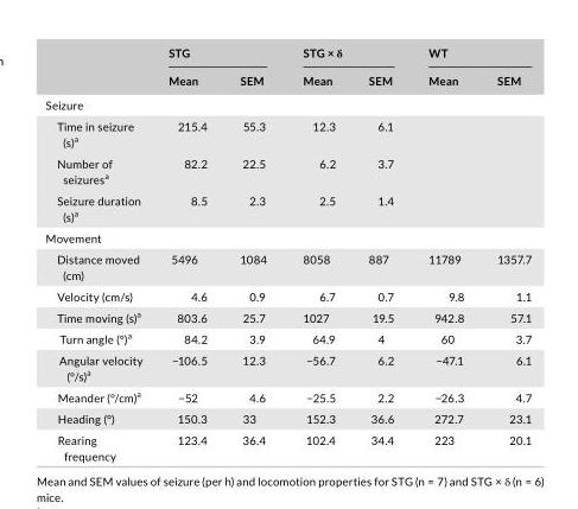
<table><thead><tr><td rowspan="2"></td><td colspan="2">STG</td><td colspan="2">STG × δ</td><td colspan="2">WT</td></tr><tr><td>Mean</td><td>SEM</td><td>Mean</td><td>SEM</td><td>Mean</td><td>SEM</td></tr></thead><tbody><tr><td colspan="7">Seizure</td></tr><tr><td>Time in seizure (s)<sup>a</sup></td><td>215.4</td><td>55.3</td><td>12.3</td><td>6.1</td><td rowspan="3"></td><td rowspan="3"></td></tr><tr><td>Number of seizures<sup>a</sup></td><td>82.2</td><td>22.5</td><td>6.2</td><td>3.7</td></tr><tr><td>Seizure duration (s)<sup>a</sup></td><td>8.5</td><td>2.3</td><td>2.5</td><td>1.4</td></tr><tr><td colspan="7">Movement</td></tr><tr><td>Distance moved (cm)</td><td>5496</td><td>1084</td><td>8058</td><td>887</td><td>11789</td><td>1357.7</td></tr><tr><td>Velocity (cm/s)</td><td>4.6</td><td>0.9</td><td>6.7</td><td>0.7</td><td>9.8</td><td>1.1</td></tr><tr><td>Time moving (s)<sup>a</sup></td><td>803.6</td><td>25.7</td><td>1027</td><td>19.5</td><td>942.8</td><td>57.1</td></tr><tr><td>Turn angle (°)<sup>a</sup></td><td>84.2</td><td>3.9</td><td>64.9</td><td>4</td><td>60</td><td>3.7</td></tr><tr><td>Angular velocity (°/s)<sup>a</sup></td><td>−106.5</td><td>12.3</td><td>−56.7</td><td>6.2</td><td>−47.1</td><td>6.1</td></tr><tr><td>Meander (°/cm)<sup>a</sup></td><td>−52</td><td>4.6</td><td>−25.5</td><td>2.2</td><td>−26.3</td><td>4.7</td></tr><tr><td>Heading (°)</td><td>150.3</td><td>33</td><td>152.3</td><td>36.6</td><td>272.7</td><td>23.1</td></tr><tr><td>Rearing frequency</td><td>123.4</td><td>36.4</td><td>102.4</td><td>34.4</td><td>223</td><td>20.1</td></tr></tbody></table>